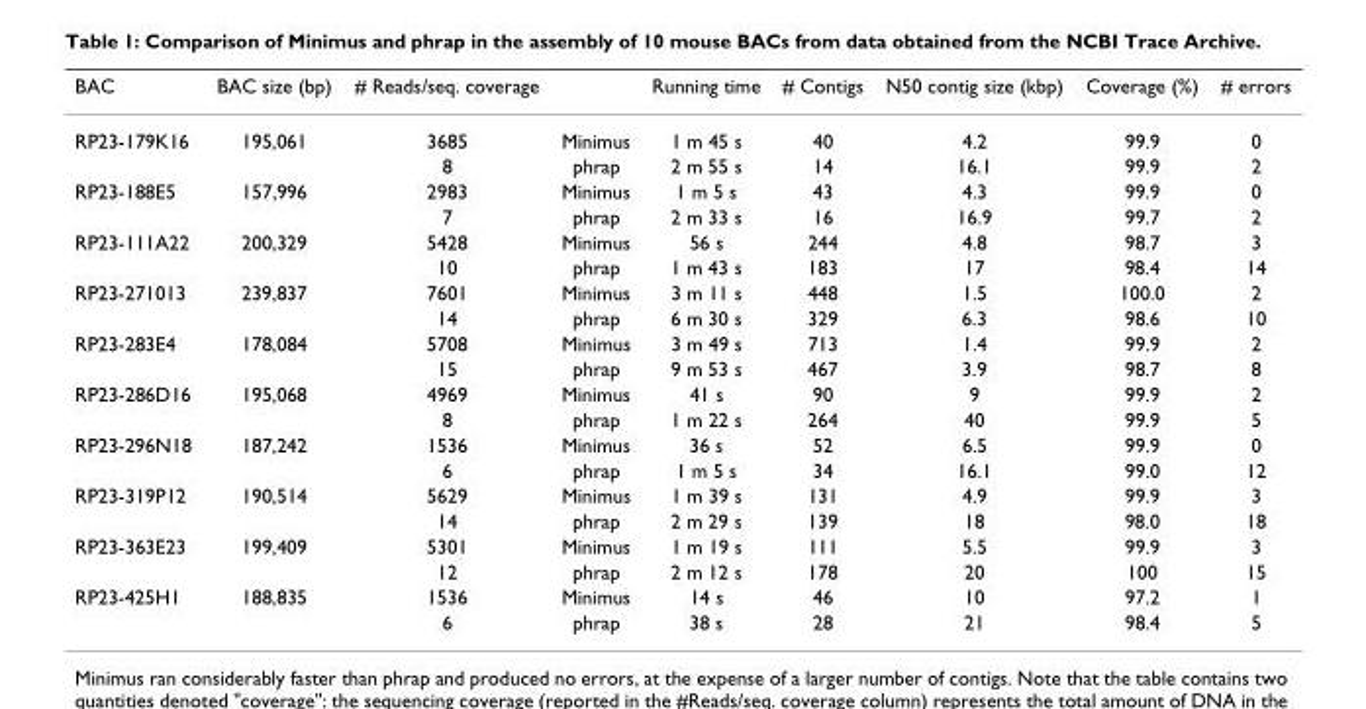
<table><thead><tr><td>BAC</td><td>BAC size (bp)</td><td># Reads/seq. coverage</td><td></td><td>Running time</td><td># Contigs</td><td>N50 contig size (kbp)</td><td>Coverage (%)</td><td># errors</td></tr></thead><tbody><tr><td rowspan="2">RP23-179K16</td><td>195,061</td><td>3685</td><td>Minimus</td><td>1 m 45 s</td><td>40</td><td>4.2</td><td>99.9</td><td>0</td></tr><tr><td></td><td>8</td><td>phrap</td><td>2 m 55 s</td><td>14</td><td>16.1</td><td>99.9</td><td>2</td></tr><tr><td rowspan="2">RP23-188E5</td><td>157,996</td><td>2983</td><td>Minimus</td><td>1 m 5 s</td><td>43</td><td>4.3</td><td>99.9</td><td>0</td></tr><tr><td></td><td>7</td><td>phrap</td><td>2 m 33 s</td><td>16</td><td>16.9</td><td>99.7</td><td>2</td></tr><tr><td rowspan="2">RP23-111A22</td><td>200,329</td><td>5428</td><td>Minimus</td><td>56 s</td><td>244</td><td>4.8</td><td>98.7</td><td>3</td></tr><tr><td></td><td>10</td><td>phrap</td><td>1 m 43 s</td><td>183</td><td>17</td><td>98.4</td><td>14</td></tr><tr><td rowspan="2">RP23-271013</td><td>239,837</td><td>7601</td><td>Minimus</td><td>3 m 11 s</td><td>448</td><td>1.5</td><td>100.0</td><td>2</td></tr><tr><td></td><td>14</td><td>phrap</td><td>6 m 30 s</td><td>329</td><td>6.3</td><td>98.6</td><td>10</td></tr><tr><td rowspan="2">RP23-283E4</td><td>178,084</td><td>5708</td><td>Minimus</td><td>3 m 49 s</td><td>713</td><td>1.4</td><td>99.9</td><td>2</td></tr><tr><td></td><td>15</td><td>phrap</td><td>9 m 53 s</td><td>467</td><td>3.9</td><td>98.7</td><td>8</td></tr><tr><td rowspan="2">RP23-286D16</td><td>195,068</td><td>4969</td><td>Minimus</td><td>41 s</td><td>90</td><td>9</td><td>99.9</td><td>2</td></tr><tr><td></td><td>8</td><td>phrap</td><td>1 m 22 s</td><td>264</td><td>40</td><td>99.9</td><td>5</td></tr><tr><td rowspan="2">RP23-296N18</td><td>187,242</td><td>1536</td><td>Minimus</td><td>36 s</td><td>52</td><td>6.5</td><td>99.9</td><td>0</td></tr><tr><td></td><td>6</td><td>phrap</td><td>1 m 5 s</td><td>34</td><td>16.1</td><td>99.0</td><td>12</td></tr><tr><td rowspan="2">RP23-319P12</td><td>190,514</td><td>5629</td><td>Minimus</td><td>1 m 39 s</td><td>131</td><td>4.9</td><td>99.9</td><td>3</td></tr><tr><td></td><td>14</td><td>phrap</td><td>2 m 29 s</td><td>139</td><td>18</td><td>98.0</td><td>18</td></tr><tr><td rowspan="2">RP23-363E23</td><td>199,409</td><td>5301</td><td>Minimus</td><td>1 m 19 s</td><td>111</td><td>5.5</td><td>99.9</td><td>3</td></tr><tr><td></td><td>12</td><td>phrap</td><td>2 m 12 s</td><td>178</td><td>20</td><td>100</td><td>15</td></tr><tr><td rowspan="2">RP23-425H1</td><td>188,835</td><td>1536</td><td>Minimus</td><td>14 s</td><td>46</td><td>10</td><td>97.2</td><td>1</td></tr><tr><td></td><td>6</td><td>phrap</td><td>38 s</td><td>28</td><td>21</td><td>98.4</td><td>5</td></tr></tbody></table>